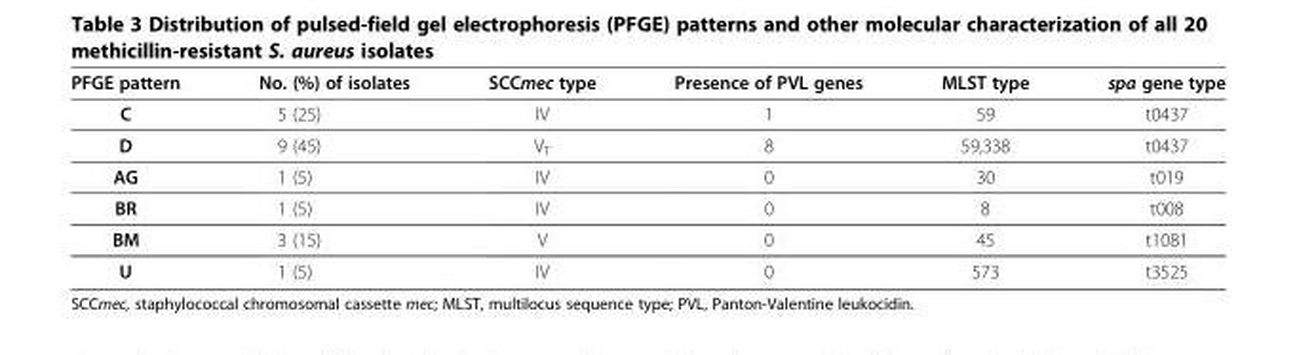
<table><thead><tr><td>PFGE pattern</td><td>No. (%) of isolates</td><td>SCCmec type</td><td>Presence of PVL genes</td><td>MLST type</td><td>spa gene type</td></tr></thead><tbody><tr><td>C</td><td>5 (25)</td><td>IV</td><td>1</td><td>59</td><td>t0437</td></tr><tr><td>D</td><td>9 (45)</td><td>V<sub>T</sub></td><td>8</td><td>59,338</td><td>t0437</td></tr><tr><td>AG</td><td>1 (5)</td><td>IV</td><td>0</td><td>30</td><td>t019</td></tr><tr><td>BR</td><td>1 (5)</td><td>IV</td><td>0</td><td>8</td><td>t008</td></tr><tr><td>BM</td><td>3 (15)</td><td>V</td><td>0</td><td>45</td><td>t1081</td></tr><tr><td>U</td><td>1 (5)</td><td>IV</td><td>0</td><td>573</td><td>t3525</td></tr></tbody></table>